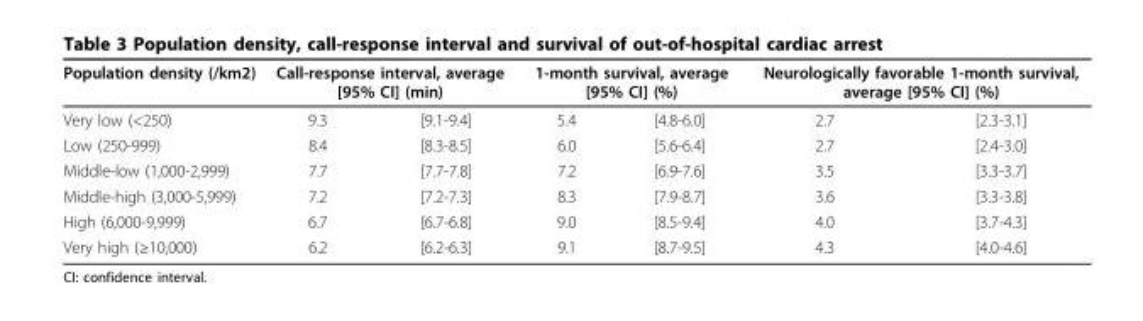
<table><thead><tr><td rowspan="2">Population density (/km2) Very low (&lt;250)</td><td colspan="2">Call-response interval, average [95% CI] (min)</td><td colspan="2">1-month survival, average [95% CI] (%)</td><td colspan="2">Neurologically favorable 1-month survival, average [95% CI] (%)</td></tr><tr><td>9.3</td><td>[9.1-9.4]</td><td>5.4</td><td>[4.8-6.0]</td><td>2.7</td><td>[2.3-3.1]</td></tr></thead><tbody><tr><td>Low (250-999)</td><td>8.4</td><td>[8.3-8.5]</td><td>6.0</td><td>[5.6-6.4]</td><td>2.7</td><td>[2.4-3.0]</td></tr><tr><td>Middle-low (1,000-2,999)</td><td>7.7</td><td>[7.7-7.8]</td><td>7.2</td><td>[6.9-7.6]</td><td>3.5</td><td>[3.3-3.7]</td></tr><tr><td>Middle-high (3,000-5,999)</td><td>7.2</td><td>[7.2-7.3]</td><td>8.3</td><td>[7.9-8.7]</td><td>3.6</td><td>[3.3-3.8]</td></tr><tr><td>High (6,000-9,999)</td><td>6.7</td><td>[6.7-6.8]</td><td>9.0</td><td>[8.5-9.4]</td><td>4.0</td><td>[3.7-4.3]</td></tr><tr><td>Very high (≥10,000)</td><td>6.2</td><td>[6.2-6.3]</td><td>9.1</td><td>[8.7-9.5]</td><td>4.3</td><td>[4.0-4.6]</td></tr></tbody></table>